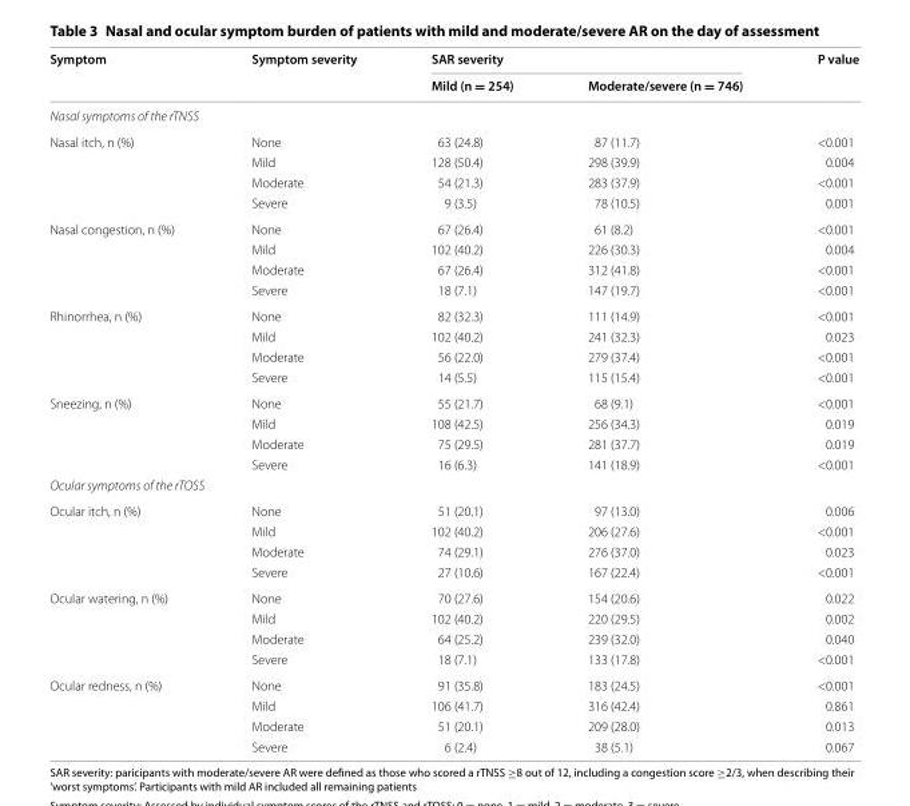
<table><thead><tr><td rowspan="2">Symptom</td><td rowspan="2">Symptom severity</td><td colspan="2">SAR severity</td><td rowspan="2">P value</td></tr><tr><td>Mild (n = 254)</td><td>Moderate/severe (n = 746)</td></tr></thead><tbody><tr><td colspan="5">Nasal symptoms of the rTNSS</td></tr><tr><td rowspan="4">Nasal itch, n (%)</td><td>None</td><td>63 (24.8)</td><td>87 (11.7)</td><td>&lt;0.001</td></tr><tr><td>Mild</td><td>128 (50.4)</td><td>298 (39.9)</td><td>0.004</td></tr><tr><td>Moderate</td><td>54 (21.3)</td><td>283 (37.9)</td><td>&lt;0.001</td></tr><tr><td>Severe</td><td>9 (3.5)</td><td>78 (10.5)</td><td>0.001</td></tr><tr><td rowspan="4">Nasal congestion, n (%)</td><td>None</td><td>67 (26.4)</td><td>61 (8.2)</td><td>&lt;0.001</td></tr><tr><td>Mild</td><td>102 (40.2)</td><td>226 (30.3)</td><td>0.004</td></tr><tr><td>Moderate</td><td>67 (26.4)</td><td>312 (41.8)</td><td>&lt;0.001</td></tr><tr><td>Severe</td><td>18 (7.1)</td><td>147 (19.7)</td><td>&lt;0.001</td></tr><tr><td rowspan="4">Rhinorrhea, n (%)</td><td>None</td><td>82 (32.3)</td><td>111 (14.9)</td><td>&lt;0.001</td></tr><tr><td>Mild</td><td>102 (40.2)</td><td>241 (32.3)</td><td>0.023</td></tr><tr><td>Moderate</td><td>56 (22.0)</td><td>279 (37.4)</td><td>&lt;0.001</td></tr><tr><td>Severe</td><td>14 (5.5)</td><td>115 (15.4)</td><td>&lt;0.001</td></tr><tr><td rowspan="4">Sneezing, n (%)</td><td>None</td><td>55 (21.7)</td><td>68 (9.1)</td><td>&lt;0.001</td></tr><tr><td>Mild</td><td>108 (42.5)</td><td>256 (34.3)</td><td>0.019</td></tr><tr><td>Moderate</td><td>75 (29.5)</td><td>281 (37.7)</td><td>0.019</td></tr><tr><td>Severe</td><td>16 (6.3)</td><td>141 (18.9)</td><td>&lt;0.001</td></tr><tr><td colspan="5">Ocular symptoms of the rTOSS</td></tr><tr><td rowspan="4">Ocular itch, n (%)</td><td>None</td><td>51 (20.1)</td><td>97 (13.0)</td><td>0.006</td></tr><tr><td>Mild</td><td>102 (40.2)</td><td>206 (27.6)</td><td>&lt;0.001</td></tr><tr><td>Moderate</td><td>74 (29.1)</td><td>276 (37.0)</td><td>0.023</td></tr><tr><td>Severe</td><td>27 (10.6)</td><td>167 (22.4)</td><td>&lt;0.001</td></tr><tr><td rowspan="4">Ocular watering, n (%)</td><td>None</td><td>70 (27.6)</td><td>154 (20.6)</td><td>0.022</td></tr><tr><td>Mild</td><td>102 (40.2)</td><td>220 (29.5)</td><td>0.002</td></tr><tr><td>Moderate</td><td>64 (25.2)</td><td>239 (32.0)</td><td>0.040</td></tr><tr><td>Severe</td><td>18 (7.1)</td><td>133 (17.8)</td><td>&lt;0.001</td></tr><tr><td rowspan="4">Ocular redness, n (%)</td><td>None</td><td>91 (35.8)</td><td>183 (24.5)</td><td>&lt;0.001</td></tr><tr><td>Mild</td><td>106 (41.7)</td><td>316 (42.4)</td><td>0.861</td></tr><tr><td>Moderate</td><td>51 (20.1)</td><td>209 (28.0)</td><td>0.013</td></tr><tr><td>Severe</td><td>6 (2.4)</td><td>38 (5.1)</td><td>0.067</td></tr></tbody></table>